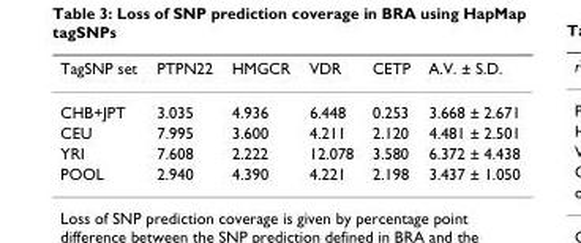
<table><thead><tr><td>TagSNP set</td><td>PTPN22</td><td>HMGCR</td><td>VDR</td><td>CETP</td><td>A.V. ± S.D.</td></tr></thead><tbody><tr><td>CHB+JPT</td><td>3.035</td><td>4.936</td><td>6.448</td><td>0.253</td><td>3.668 ± 2.671</td></tr><tr><td>CEU</td><td>7.995</td><td>3.600</td><td>4.211</td><td>2.120</td><td>4.481 ± 2.501</td></tr><tr><td>YRI</td><td>7.608</td><td>2.222</td><td>12.078</td><td>3.580</td><td>6.372 ± 4.438</td></tr><tr><td>POOL</td><td>2.940</td><td>4.390</td><td>4.221</td><td>2.198</td><td>3.437 ± 1.050</td></tr></tbody></table>